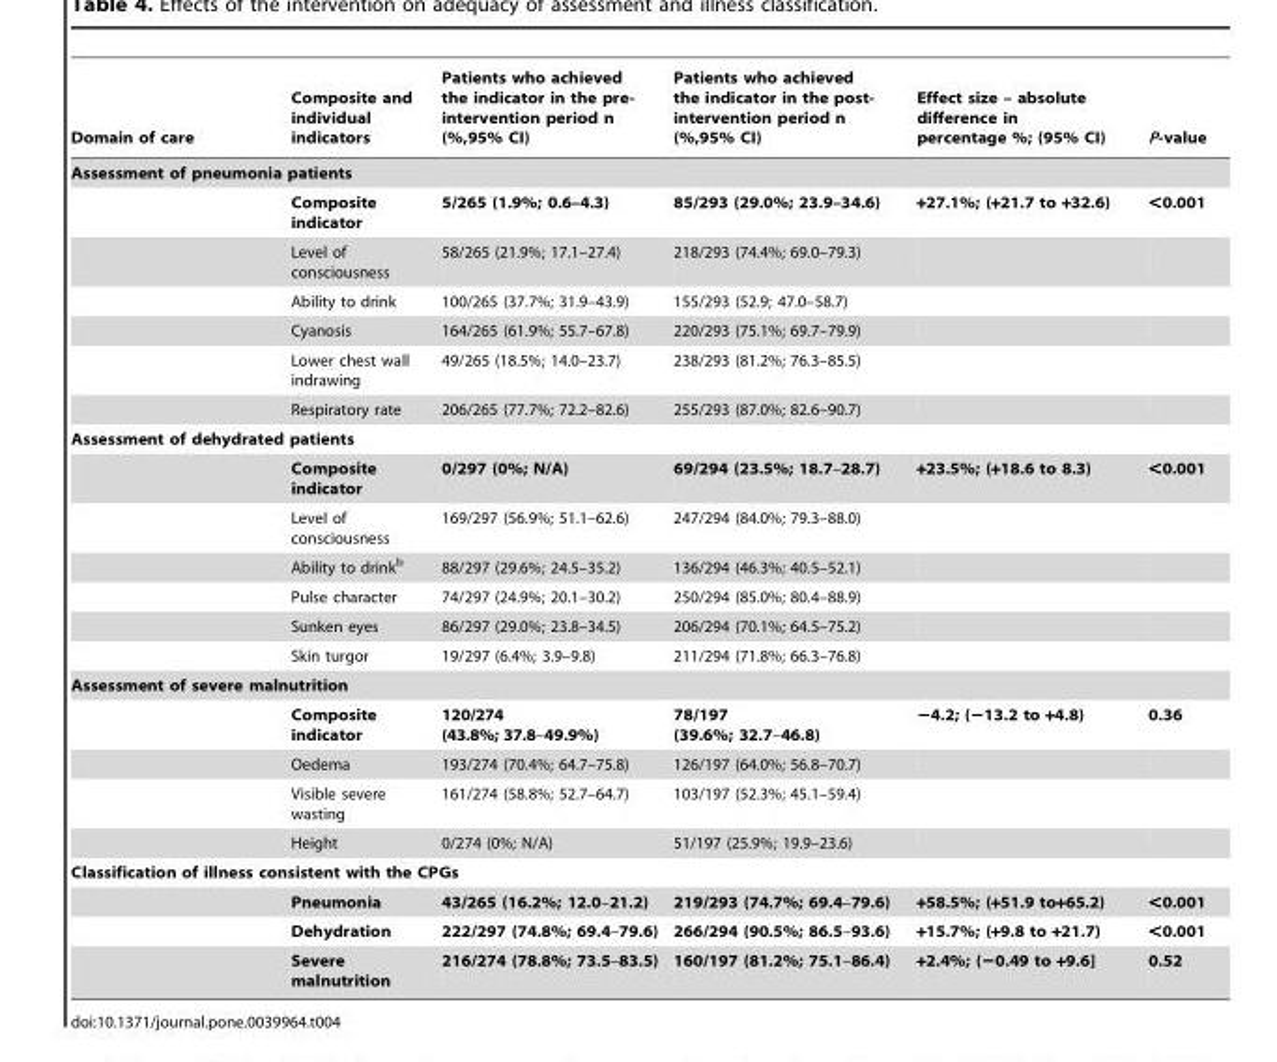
<table><thead><tr><td>Domain of care</td><td>Composite and individual indicators</td><td>Patients who achieved the indicator in the pre- intervention period n (%,95% CI)</td><td>Patients who achieved the indicator in the post- intervention period n (%,95% CI)</td><td>Effect size – absolute difference in percentage %; (95% CI)</td><td>P-value</td></tr></thead><tbody><tr><td colspan="6">Assessment of pneumonia patients</td></tr><tr><td></td><td>Composite indicator</td><td>5/265 (1.9%; 0.6–4.3)</td><td>85/293 (29.0%; 23.9–34.6)</td><td>+27.1%; (+21.7 to +32.6)</td><td>&lt;0.001</td></tr><tr><td></td><td>Level of consciousness</td><td>58/265 (21.9%; 17.1–27.4)</td><td>218/293 (74.4%; 69.0–79.3)</td><td></td><td></td></tr><tr><td></td><td>Ability to drink</td><td>100/265 (37.7%; 31.9–43.9)</td><td>155/293 (52.9; 47.0–58.7)</td><td></td><td></td></tr><tr><td></td><td>Cyanosis</td><td>164/265 (61.9%; 55.7–67.8)</td><td>220/293 (75.1%; 69.7–79.9)</td><td></td><td></td></tr><tr><td></td><td>Lower chest wall indrawing</td><td>49/265 (18.5%; 14.0–23.7)</td><td>238/293 (81.2%; 76.3–85.5)</td><td></td><td></td></tr><tr><td></td><td>Respiratory rate</td><td>206/265 (77.7%; 72.2–82.6)</td><td>255/293 (87.0%; 82.6–90.7)</td><td></td><td></td></tr><tr><td colspan="6">Assessment of dehydrated patients</td></tr><tr><td></td><td>Composite indicator</td><td>0/297 (0%; N/A)</td><td>69/294 (23.5%; 18.7–28.7)</td><td>+23.5%; (+18.6 to 8.3)</td><td>&lt;0.001</td></tr><tr><td></td><td>Level of consciousness</td><td>169/297 (56.9%; 51.1–62.6)</td><td>247/294 (84.0%; 79.3–88.0)</td><td></td><td></td></tr><tr><td></td><td>Ability to drink<sup>b</sup></td><td>88/297 (29.6%; 24.5–35.2)</td><td>136/294 (46.3%; 40.5–52.1)</td><td></td><td></td></tr><tr><td></td><td>Pulse character</td><td>74/297 (24.9%; 20.1–30.2)</td><td>250/294 (85.0%; 80.4–88.9)</td><td></td><td></td></tr><tr><td></td><td>Sunken eyes</td><td>86/297 (29.0%; 23.8–34.5)</td><td>206/294 (70.1%; 64.5–75.2)</td><td></td><td></td></tr><tr><td></td><td>Skin turgor</td><td>19/297 (6.4%; 3.9–9.8)</td><td>211/294 (71.8%; 66.3–76.8)</td><td></td><td></td></tr><tr><td colspan="6">Assessment of severe malnutrition</td></tr><tr><td></td><td>Composite indicator</td><td>120/274 (43.8%; 37.8–49.9%)</td><td>78/197 (39.6%; 32.7–46.8)</td><td>−4.2; (−13.2 to +4.8)</td><td>0.36</td></tr><tr><td></td><td>Oedema</td><td>193/274 (70.4%; 64.7–75.8)</td><td>126/197 (64.0%; 56.8–70.7)</td><td></td><td></td></tr><tr><td></td><td>Visible severe wasting</td><td>161/274 (58.8%; 52.7–64.7)</td><td>103/197 (52.3%; 45.1–59.4)</td><td></td><td></td></tr><tr><td></td><td>Height</td><td>0/274 (0%; N/A)</td><td>51/197 (25.9%; 19.9–23.6)</td><td></td><td></td></tr><tr><td colspan="6">Classification of illness consistent with the CPGs</td></tr><tr><td></td><td>Pneumonia</td><td>43/265 (16.2%; 12.0–21.2)</td><td>219/293 (74.7%; 69.4–79.6)</td><td>+58.5%; (+51.9 to+65.2)</td><td>&lt;0.001</td></tr><tr><td></td><td>Dehydration</td><td>222/297 (74.8%; 69.4–79.6)</td><td>266/294 (90.5%; 86.5–93.6)</td><td>+15.7%; (+9.8 to +21.7)</td><td>&lt;0.001</td></tr><tr><td></td><td>Severe malnutrition</td><td>216/274 (78.8%; 73.5–83.5)</td><td>160/197 (81.2%; 75.1–86.4)</td><td>+2.4%; (−0.49 to +9.6]</td><td>0.52</td></tr></tbody></table>